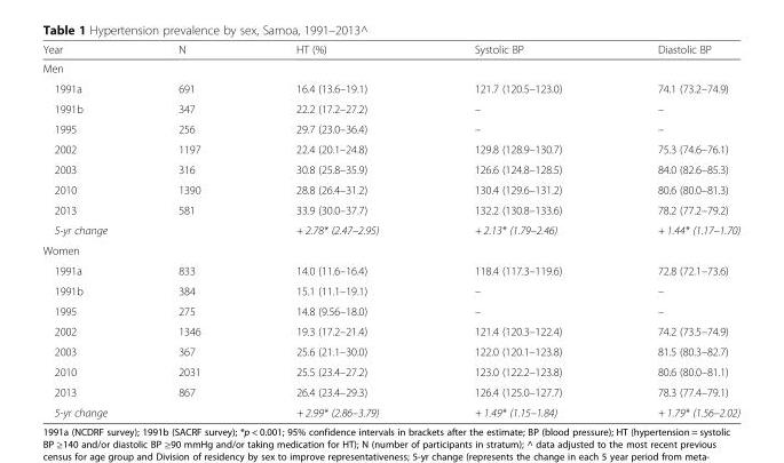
<table><thead><tr><td>Year</td><td>N</td><td>HT (%)</td><td>Systolic BP</td><td>Diastolic BP</td></tr></thead><tbody><tr><td colspan="5">Men</td></tr><tr><td>1991a</td><td>691</td><td>16.4 (13.6–19.1)</td><td>121.7 (120.5–123.0)</td><td>74.1 (73.2–74.9)</td></tr><tr><td>1991b</td><td>347</td><td>22.2 (17.2–27.2)</td><td>–</td><td>–</td></tr><tr><td>1995</td><td>256</td><td>29.7 (23.0–36.4)</td><td>–</td><td>–</td></tr><tr><td>2002</td><td>1197</td><td>22.4 (20.1–24.8)</td><td>129.8 (128.9–130.7)</td><td>75.3 (74.6–76.1)</td></tr><tr><td>2003</td><td>316</td><td>30.8 (25.8–35.9)</td><td>126.6 (124.8–128.5)</td><td>84.0 (82.6–85.3)</td></tr><tr><td>2010</td><td>1390</td><td>28.8 (26.4–31.2)</td><td>130.4 (129.6–131.2)</td><td>80.6 (80.0–81.3)</td></tr><tr><td>2013</td><td>581</td><td>33.9 (30.0–37.7)</td><td>132.2 (130.8–133.6)</td><td>78.2 (77.2–79.2)</td></tr><tr><td colspan="2">5-yr change</td><td>+ 2.78* (2.47–2.95)</td><td>+ 2.13* (1.79–2.46)</td><td>+ 1.44* (1.17–1.70)</td></tr><tr><td colspan="5">Women</td></tr><tr><td>1991a</td><td>833</td><td>14.0 (11.6–16.4)</td><td>118.4 (117.3–119.6)</td><td>72.8 (72.1–73.6)</td></tr><tr><td>1991b</td><td>384</td><td>15.1 (11.1–19.1)</td><td>–</td><td>–</td></tr><tr><td>1995</td><td>275</td><td>14.8 (9.56–18.0)</td><td>–</td><td>–</td></tr><tr><td>2002</td><td>1346</td><td>19.3 (17.2–21.4)</td><td>121.4 (120.3–122.4)</td><td>74.2 (73.5–74.9)</td></tr><tr><td>2003</td><td>367</td><td>25.6 (21.1–30.0)</td><td>122.0 (120.1–123.8)</td><td>81.5 (80.3–82.7)</td></tr><tr><td>2010</td><td>2031</td><td>25.5 (23.4–27.2)</td><td>123.0 (122.2–123.8)</td><td>80.6 (80.0–81.1)</td></tr><tr><td>2013</td><td>867</td><td>26.4 (23.4–29.3)</td><td>126.4 (125.0–127.7)</td><td>78.3 (77.4–79.1)</td></tr><tr><td colspan="2">5-yr change</td><td>+ 2.99* (2.86–3.79)</td><td>+ 1.49* (1.15–1.84)</td><td>+ 1.79* (1.56–2.02)</td></tr></tbody></table>